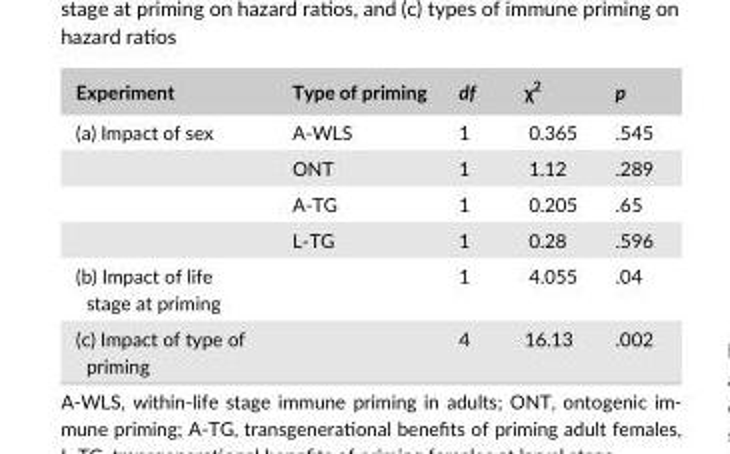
<table><thead><tr><td>Experiment</td><td>Type of priming</td><td>df</td><td>χ<sup>2</sup></td><td>p</td></tr></thead><tbody><tr><td rowspan="4">(a) Impact of sex</td><td>A- WLS</td><td>1</td><td>0.365</td><td>.545</td></tr><tr><td>ONT</td><td>1</td><td>1.12</td><td>.289</td></tr><tr><td>A- TG</td><td>1</td><td>0.205</td><td>.65</td></tr><tr><td>L- TG</td><td>1</td><td>0.28</td><td>.596</td></tr><tr><td>(b) Impact of life stage at priming</td><td></td><td>1</td><td>4.055</td><td>.04</td></tr><tr><td>(c) Impact of type of priming</td><td></td><td>4</td><td>16.13</td><td>.002</td></tr></tbody></table>